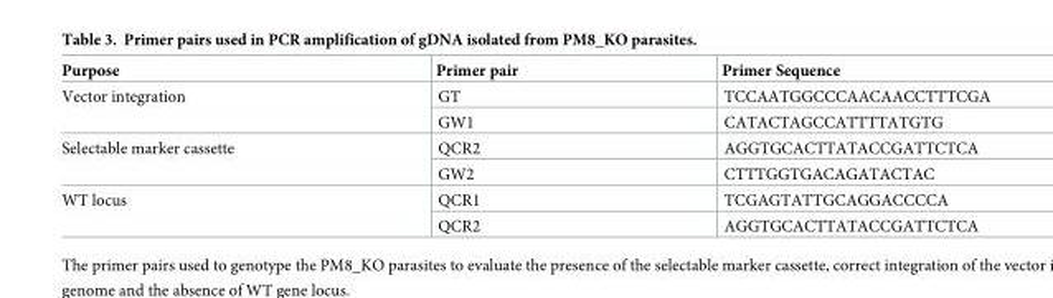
<table><thead><tr><td>Purpose</td><td>Primer pair</td><td>Primer Sequence</td></tr></thead><tbody><tr><td rowspan="2">Vector integration</td><td>GT</td><td>TCCAATGGCCCAACAACCTTTCGA</td></tr><tr><td>GW1</td><td>CATACTAGCCATTTTATGTG</td></tr><tr><td rowspan="2">Selectable marker cassette</td><td>QCR2</td><td>AGGTGCACTTATACCGATTCTCA</td></tr><tr><td>GW2</td><td>CTTTGGTGACAGATACTAC</td></tr><tr><td rowspan="2">WT locus</td><td>QCR1</td><td>TCGAGTATTGCAGGACCCCA</td></tr><tr><td>QCR2</td><td>AGGTGCACTTATACCGATTCTCA</td></tr></tbody></table>